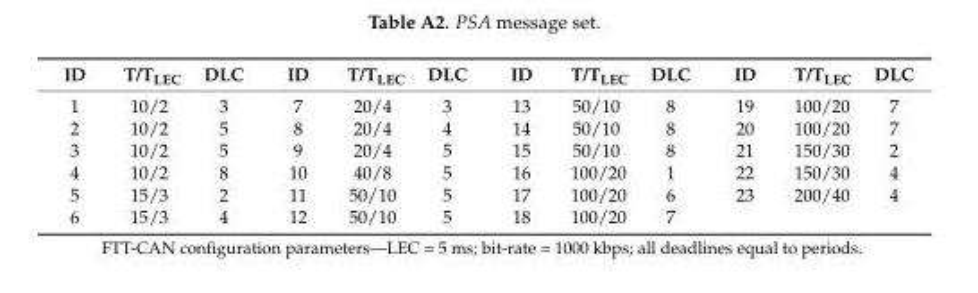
<table><thead><tr><td>ID</td><td>T/T<sub>LEC</sub></td><td>DLC</td><td>ID</td><td>T/T<sub>LEC</sub></td><td>DLC</td><td>ID</td><td>T/T<sub>LEC</sub></td><td>DLC</td><td>ID</td><td>T/T<sub>LEC</sub></td><td>DLC</td></tr></thead><tbody><tr><td>1</td><td>10/2</td><td>3</td><td>7</td><td>20/4</td><td>3</td><td>13</td><td>50/10</td><td>8</td><td>19</td><td>100/20</td><td>7</td></tr><tr><td>2</td><td>10/2</td><td>5</td><td>8</td><td>20/4</td><td>4</td><td>14</td><td>50/10</td><td>8</td><td>20</td><td>100/20</td><td>7</td></tr><tr><td>3</td><td>10/2</td><td>5</td><td>9</td><td>20/4</td><td>5</td><td>15</td><td>50/10</td><td>8</td><td>21</td><td>150/30</td><td>2</td></tr><tr><td>4</td><td>10/2</td><td>8</td><td>10</td><td>40/8</td><td>5</td><td>16</td><td>100/20</td><td>1</td><td>22</td><td>150/30</td><td>4</td></tr><tr><td>5</td><td>15/3</td><td>2</td><td>11</td><td>50/10</td><td>5</td><td>17</td><td>100/20</td><td>6</td><td>23</td><td>200/40</td><td>4</td></tr><tr><td>6</td><td>15/3</td><td>4</td><td>12</td><td>50/10</td><td>5</td><td>18</td><td>100/20</td><td>7</td><td></td><td></td><td></td></tr></tbody></table>